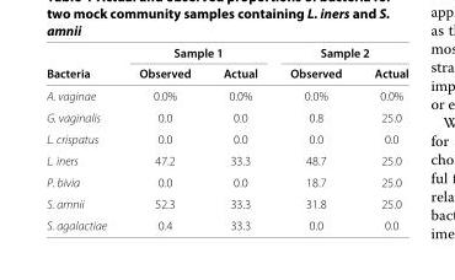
<table><thead><tr><td rowspan="2">Bacteria</td><td colspan="2">Sample 1</td><td colspan="2">Sample 2</td></tr><tr><td>Observed</td><td>Actual</td><td>Observed</td><td>Actual</td></tr></thead><tbody><tr><td>A. vaginae</td><td>0.0%</td><td>0.0%</td><td>0.0%</td><td>0.0%</td></tr><tr><td>G. vaginalis</td><td>0.0</td><td>0.0</td><td>0.8</td><td>25.0</td></tr><tr><td>L. crispatus</td><td>0.0</td><td>0.0</td><td>0.0</td><td>0.0</td></tr><tr><td>L. iners</td><td>47.2</td><td>33.3</td><td>48.7</td><td>25.0</td></tr><tr><td>P. bivia</td><td>0.0</td><td>0.0</td><td>18.7</td><td>25.0</td></tr><tr><td>S. amnii</td><td>52.3</td><td>33.3</td><td>31.8</td><td>25.0</td></tr><tr><td>S. agalactiae</td><td>0.4</td><td>33.3</td><td>0.0</td><td>0.0</td></tr></tbody></table>